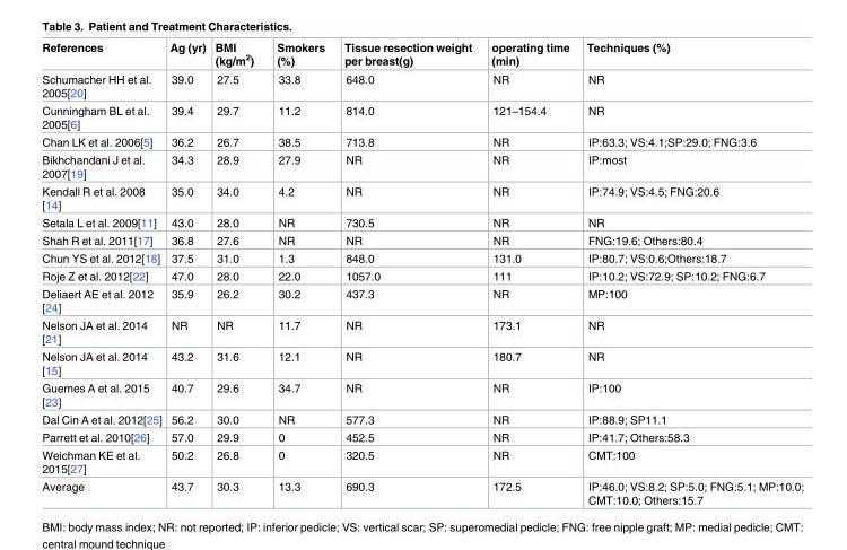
<table><thead><tr><td>References</td><td>Ag (yr)</td><td>BMI (kg/m<sup>2</sup>)</td><td>Smokers (%)</td><td>Tissue resection weight per breast(g)</td><td>operating time (min)</td><td>Techniques (%)</td></tr></thead><tbody><tr><td>Schumacher HH et al. 2005[20]</td><td>39.0</td><td>27.5</td><td>33.8</td><td>648.0</td><td>NR</td><td>NR</td></tr><tr><td>Cunningham BL et al. 2005[6]</td><td>39.4</td><td>29.7</td><td>11.2</td><td>814.0</td><td>121–154.4</td><td>NR</td></tr><tr><td>Chan LK et al. 2006[5]</td><td>36.2</td><td>26.7</td><td>38.5</td><td>713.8</td><td>NR</td><td>IP:63.3; VS:4.1;SP:29.0; FNG:3.6</td></tr><tr><td>Bikhchandani J et al. 2007[19]</td><td>34.3</td><td>28.9</td><td>27.9</td><td>NR</td><td>NR</td><td>IP:most</td></tr><tr><td>Kendall R et al. 2008 [14]</td><td>35.0</td><td>34.0</td><td>4.2</td><td>NR</td><td>NR</td><td>IP:74.9; VS:4.5; FNG:20.6</td></tr><tr><td>Setala L et al. 2009[11]</td><td>43.0</td><td>28.0</td><td>NR</td><td>730.5</td><td>NR</td><td>NR</td></tr><tr><td>Shah R et al. 2011[17]</td><td>36.8</td><td>27.6</td><td>NR</td><td>NR</td><td>NR</td><td>FNG:19.6; Others:80.4</td></tr><tr><td>Chun YS et al. 2012[18]</td><td>37.5</td><td>31.0</td><td>1.3</td><td>848.0</td><td>131.0</td><td>IP:80.7; VS:0.6;Others:18.7</td></tr><tr><td>Roje Z et al. 2012[22]</td><td>47.0</td><td>28.0</td><td>22.0</td><td>1057.0</td><td>111</td><td>IP:10.2; VS:72.9; SP:10.2; FNG:6.7</td></tr><tr><td>Deliaert AE et al. 2012 [24]</td><td>35.9</td><td>26.2</td><td>30.2</td><td>437.3</td><td>NR</td><td>MP:100</td></tr><tr><td>Nelson JA et al. 2014 [21]</td><td>NR</td><td>NR</td><td>11.7</td><td>NR</td><td>173.1</td><td>NR</td></tr><tr><td>Nelson JA et al. 2014 [15]</td><td>43.2</td><td>31.6</td><td>12.1</td><td>NR</td><td>180.7</td><td>NR</td></tr><tr><td>Guemes A et al. 2015 [23]</td><td>40.7</td><td>29.6</td><td>34.7</td><td>NR</td><td>NR</td><td>IP:100</td></tr><tr><td>Dal Cin A et al. 2012[25]</td><td>56.2</td><td>30.0</td><td>NR</td><td>577.3</td><td>NR</td><td>IP:88.9; SP11.1</td></tr><tr><td>Parrett et al. 2010[26]</td><td>57.0</td><td>29.9</td><td>0</td><td>452.5</td><td>NR</td><td>IP:41.7; Others:58.3</td></tr><tr><td>Weichman KE et al. 2015[27]</td><td>50.2</td><td>26.8</td><td>0</td><td>320.5</td><td>NR</td><td>CMT:100</td></tr><tr><td>Average</td><td>43.7</td><td>30.3</td><td>13.3</td><td>690.3</td><td>172.5</td><td>IP:46.0; VS:8.2; SP:5.0; FNG:5.1; MP:10.0; CMT:10.0; Others:15.7</td></tr></tbody></table>